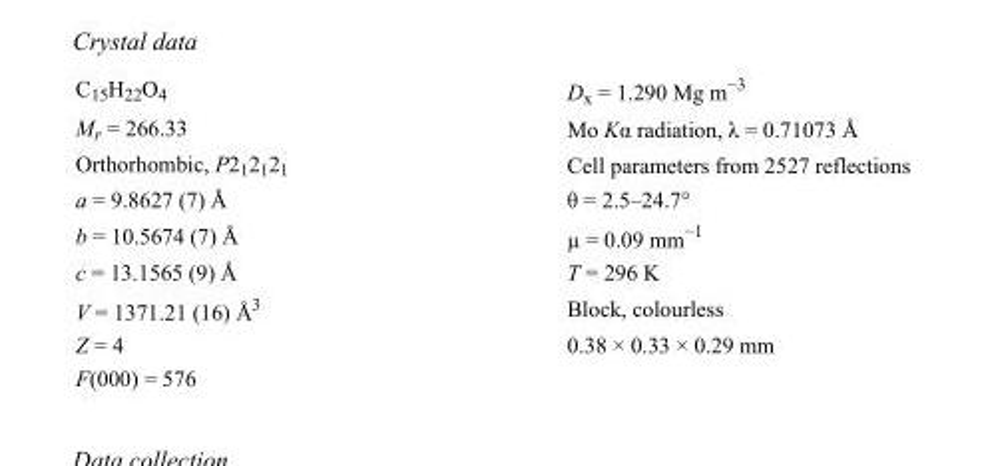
<table><tbody><tr><td>C<sub>15</sub>H<sub>22</sub>O<sub>4</sub></td><td>D<sub>x</sub> = 1.290 Mg m<sup>−3</sup></td></tr><tr><td>M<sub>r</sub> = 266.33</td><td>Mo Kα radiation, λ = 0.71073 Å</td></tr><tr><td>Orthorhombic, P2<sub>1</sub>2<sub>1</sub>2<sub>1</sub></td><td>Cell parameters from 2527 reflections</td></tr><tr><td>a = 9.8627 (7) Å</td><td>θ = 2.5–24.7°</td></tr><tr><td>b = 10.5674 (7) Å</td><td>µ = 0.09 mm<sup>−1</sup></td></tr><tr><td>c = 13.1565 (9) Å</td><td>T = 296 K</td></tr><tr><td>V = 1371.21 (16) Å<sup>3</sup></td><td>Block, colourless</td></tr><tr><td>Z = 4</td><td>0.38 × 0.33 × 0.29 mm</td></tr><tr><td>F(000) = 576</td><td></td></tr></tbody></table>